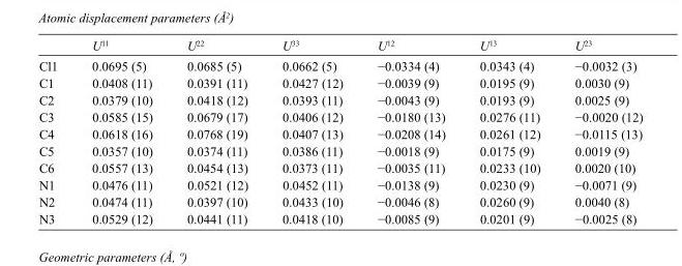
<table><thead><tr><td></td><td>U<sup>11</sup></td><td>U<sup>22</sup></td><td>U<sup>33</sup></td><td>U<sup>12</sup></td><td>U<sup>13</sup></td><td>U<sup>23</sup></td></tr></thead><tbody><tr><td>Cl1</td><td>0.0695 (5)</td><td>0.0685 (5)</td><td>0.0662 (5)</td><td>−0.0334 (4)</td><td>0.0343 (4)</td><td>−0.0032 (3)</td></tr><tr><td>C1</td><td>0.0408 (11)</td><td>0.0391 (11)</td><td>0.0427 (12)</td><td>−0.0039 (9)</td><td>0.0195 (9)</td><td>0.0030 (9)</td></tr><tr><td>C2</td><td>0.0379 (10)</td><td>0.0418 (12)</td><td>0.0393 (11)</td><td>−0.0043 (9)</td><td>0.0193 (9)</td><td>0.0025 (9)</td></tr><tr><td>C3</td><td>0.0585 (15)</td><td>0.0679 (17)</td><td>0.0406 (12)</td><td>−0.0180 (13)</td><td>0.0276 (11)</td><td>−0.0020 (12)</td></tr><tr><td>C4</td><td>0.0618 (16)</td><td>0.0768 (19)</td><td>0.0407 (13)</td><td>−0.0208 (14)</td><td>0.0261 (12)</td><td>−0.0115 (13)</td></tr><tr><td>C5</td><td>0.0357 (10)</td><td>0.0374 (11)</td><td>0.0386 (11)</td><td>−0.0018 (9)</td><td>0.0175 (9)</td><td>0.0019 (9)</td></tr><tr><td>C6</td><td>0.0557 (13)</td><td>0.0454 (13)</td><td>0.0373 (11)</td><td>−0.0035 (11)</td><td>0.0233 (10)</td><td>0.0020 (10)</td></tr><tr><td>N1</td><td>0.0476 (11)</td><td>0.0521 (12)</td><td>0.0452 (11)</td><td>−0.0138 (9)</td><td>0.0230 (9)</td><td>−0.0071 (9)</td></tr><tr><td>N2</td><td>0.0474 (11)</td><td>0.0397 (10)</td><td>0.0433 (10)</td><td>−0.0046 (8)</td><td>0.0260 (9)</td><td>0.0040 (8)</td></tr><tr><td>N3</td><td>0.0529 (12)</td><td>0.0441 (11)</td><td>0.0418 (10)</td><td>−0.0085 (9)</td><td>0.0201 (9)</td><td>−0.0025 (8)</td></tr></tbody></table>